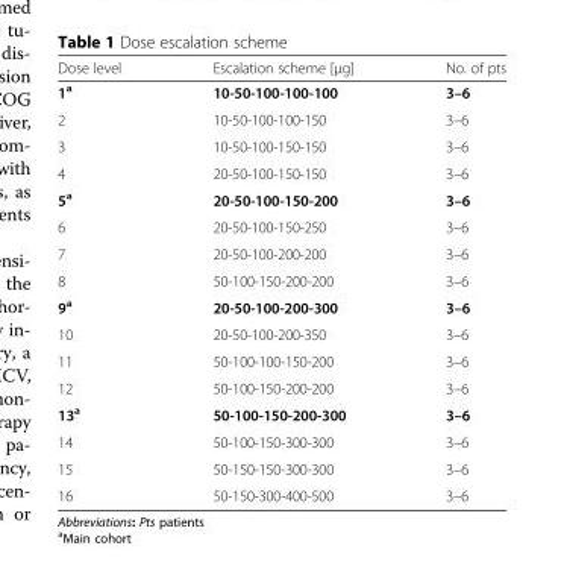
<table><thead><tr><td>Dose level</td><td>Escalation scheme [μg]</td><td>No. of pts</td></tr></thead><tbody><tr><td>1<sup>a</sup></td><td>10-50-100-100-100</td><td>3–6</td></tr><tr><td>2</td><td>10-50-100-100-150</td><td>3–6</td></tr><tr><td>3</td><td>10-50-100-150-150</td><td>3–6</td></tr><tr><td>4</td><td>20-50-100-150-150</td><td>3–6</td></tr><tr><td>5<sup>a</sup></td><td>20-50-100-150-200</td><td>3–6</td></tr><tr><td>6</td><td>20-50-100-150-250</td><td>3–6</td></tr><tr><td>7</td><td>20-50-100-200-200</td><td>3–6</td></tr><tr><td>8</td><td>50-100-150-200-200</td><td>3–6</td></tr><tr><td>9<sup>a</sup></td><td>20-50-100-200-300</td><td>3–6</td></tr><tr><td>10</td><td>20-50-100-200-350</td><td>3–6</td></tr><tr><td>11</td><td>50-100-100-150-200</td><td>3–6</td></tr><tr><td>12</td><td>50-100-150-200-200</td><td>3–6</td></tr><tr><td>13<sup>a</sup></td><td>50-100-150-200-300</td><td>3–6</td></tr><tr><td>14</td><td>50-100-150-300-300</td><td>3–6</td></tr><tr><td>15</td><td>50-150-150-300-300</td><td>3–6</td></tr><tr><td>16</td><td>50-150-300-400-500</td><td>3–6</td></tr></tbody></table>